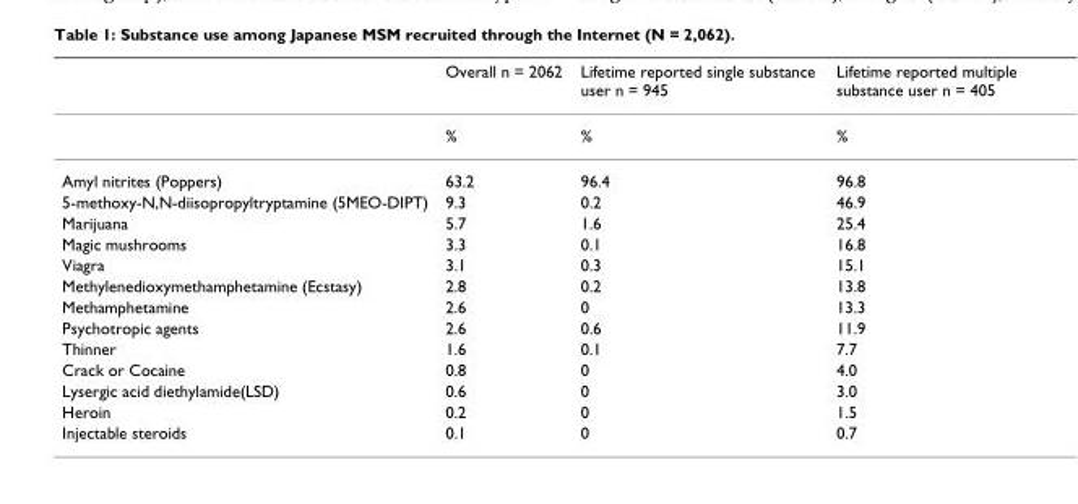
<table><thead><tr><td></td><td>Overall n = 2062</td><td>Lifetime reported single substance user n = 945</td><td>Lifetime reported multiple substance user n = 405</td></tr></thead><tbody><tr><td></td><td>%</td><td>%</td><td>%</td></tr><tr><td>Amyl nitrites (Poppers)</td><td>63.2</td><td>96.4</td><td>96.8</td></tr><tr><td>5-methoxy-N,N-diisopropyltryptamine (5MEO-DIPT)</td><td>9.3</td><td>0.2</td><td>46.9</td></tr><tr><td>Marijuana</td><td>5.7</td><td>1.6</td><td>25.4</td></tr><tr><td>Magic mushrooms</td><td>3.3</td><td>0.1</td><td>16.8</td></tr><tr><td>Viagra</td><td>3.1</td><td>0.3</td><td>15.1</td></tr><tr><td>Methylenedioxymethamphetamine (Ecstasy)</td><td>2.8</td><td>0.2</td><td>13.8</td></tr><tr><td>Methamphetamine</td><td>2.6</td><td>0</td><td>13.3</td></tr><tr><td>Psychotropic agents</td><td>2.6</td><td>0.6</td><td>11.9</td></tr><tr><td>Thinner</td><td>1.6</td><td>0.1</td><td>7.7</td></tr><tr><td>Crack or Cocaine</td><td>0.8</td><td>0</td><td>4.0</td></tr><tr><td>Lysergic acid diethylamide(LSD)</td><td>0.6</td><td>0</td><td>3.0</td></tr><tr><td>Heroin</td><td>0.2</td><td>0</td><td>1.5</td></tr><tr><td>Injectable steroids</td><td>0.1</td><td>0</td><td>0.7</td></tr></tbody></table>